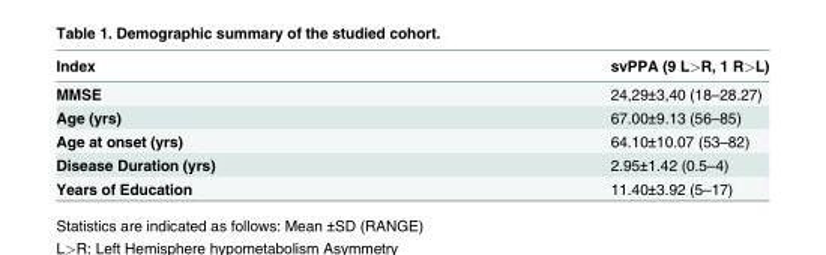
<table><thead><tr><td>Index</td><td>svPPA (9 L&gt;R, 1 R&gt;L)</td></tr></thead><tbody><tr><td>MMSE</td><td>24,29±3,40 (18–28.27)</td></tr><tr><td>Age (yrs)</td><td>67.00±9.13 (56–85)</td></tr><tr><td>Age at onset (yrs)</td><td>64.10±10.07 (53–82)</td></tr><tr><td>Disease Duration (yrs)</td><td>2.95±1.42 (0.5–4)</td></tr><tr><td>Years of Education</td><td>11.40±3.92 (5–17)</td></tr></tbody></table>